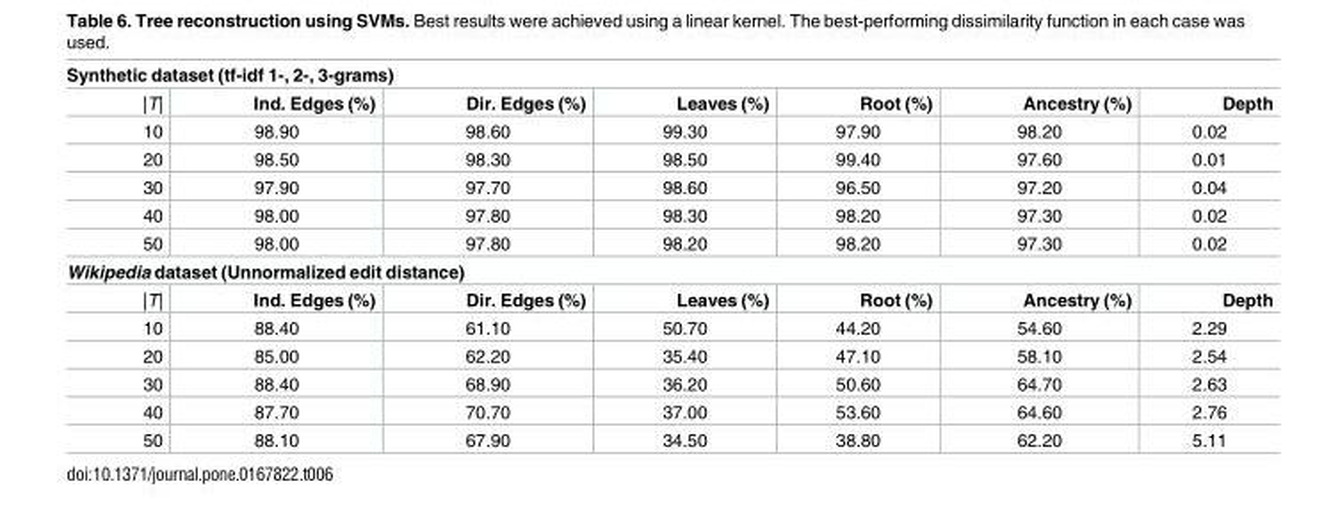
<table><tbody><tr><td colspan="7">Synthetic dataset (tf-idf 1-, 2-, 3-grams)</td></tr><tr><td>|T|</td><td>Ind. Edges (%)</td><td>Dir. Edges (%)</td><td>Leaves (%)</td><td>Root (%)</td><td>Ancestry (%)</td><td>Depth</td></tr><tr><td>10</td><td>98.90</td><td>98.60</td><td>99.30</td><td>97.90</td><td>98.20</td><td>0.02</td></tr><tr><td>20</td><td>98.50</td><td>98.30</td><td>98.50</td><td>99.40</td><td>97.60</td><td>0.01</td></tr><tr><td>30</td><td>97.90</td><td>97.70</td><td>98.60</td><td>96.50</td><td>97.20</td><td>0.04</td></tr><tr><td>40</td><td>98.00</td><td>97.80</td><td>98.30</td><td>98.20</td><td>97.30</td><td>0.02</td></tr><tr><td>50</td><td>98.00</td><td>97.80</td><td>98.20</td><td>98.20</td><td>97.30</td><td>0.02</td></tr><tr><td colspan="7">Wikipedia dataset (Unnormalized edit distance)</td></tr><tr><td>|T|</td><td>Ind. Edges (%)</td><td>Dir. Edges (%)</td><td>Leaves (%)</td><td>Root (%)</td><td>Ancestry (%)</td><td>Depth</td></tr><tr><td>10</td><td>88.40</td><td>61.10</td><td>50.70</td><td>44.20</td><td>54.60</td><td>2.29</td></tr><tr><td>20</td><td>85.00</td><td>62.20</td><td>35.40</td><td>47.10</td><td>58.10</td><td>2.54</td></tr><tr><td>30</td><td>88.40</td><td>68.90</td><td>36.20</td><td>50.60</td><td>64.70</td><td>2.63</td></tr><tr><td>40</td><td>87.70</td><td>70.70</td><td>37.00</td><td>53.60</td><td>64.60</td><td>2.76</td></tr><tr><td>50</td><td>88.10</td><td>67.90</td><td>34.50</td><td>38.80</td><td>62.20</td><td>5.11</td></tr></tbody></table>